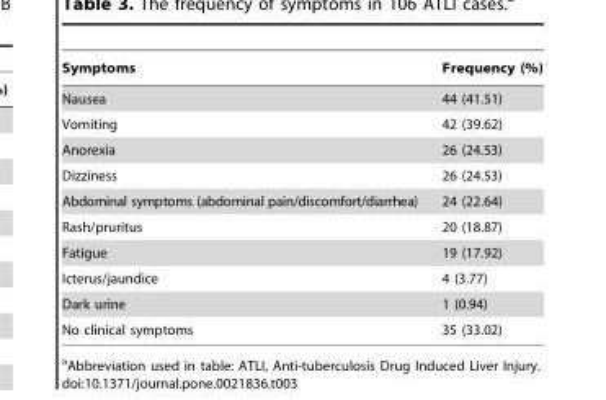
<table><thead><tr><td>Symptoms</td><td>Frequency (%)</td></tr></thead><tbody><tr><td>Nausea</td><td>44 (41.51)</td></tr><tr><td>Vomiting</td><td>42 (39.62)</td></tr><tr><td>Anorexia</td><td>26 (24.53)</td></tr><tr><td>Dizziness</td><td>26 (24.53)</td></tr><tr><td>Abdominal symptoms (abdominal pain/discomfort/diarrhea)</td><td>24 (22.64)</td></tr><tr><td>Rash/pruritus</td><td>20 (18.87)</td></tr><tr><td>Fatigue</td><td>19 (17.92)</td></tr><tr><td>Icterus/jaundice</td><td>4 (3.77)</td></tr><tr><td>Dark urine</td><td>1 (0.94)</td></tr><tr><td>No clinical symptoms</td><td>35 (33.02)</td></tr></tbody></table>